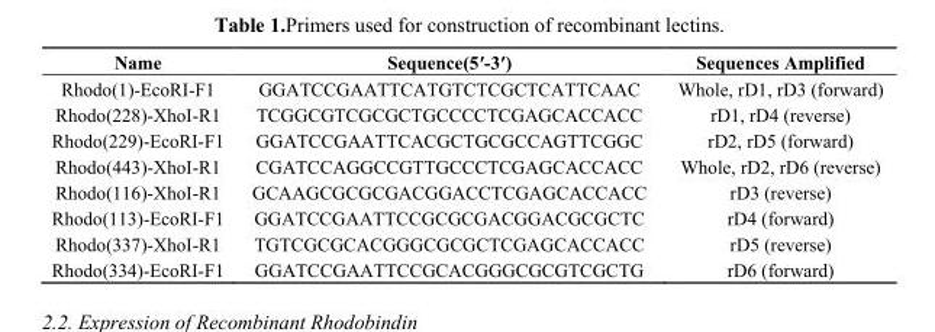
<table><thead><tr><td>Name</td><td>Sequence(5′-3′)</td><td>Sequences Amplified</td></tr></thead><tbody><tr><td>Rhodo(1)-EcoRI-F1</td><td>GGATCCGAATTCATGTCTCGCTCATTCAAC</td><td>Whole, rD1, rD3 (forward)</td></tr><tr><td>Rhodo(228)-XhoI-R1</td><td>TCGGCGTCGCGCTGCCCCTCGAGCACCACC</td><td>rD1, rD4 (reverse)</td></tr><tr><td>Rhodo(229)-EcoRI-F1</td><td>GGATCCGAATTCACGCTGCGCCAGTTCGGC</td><td>rD2, rD5 (forward)</td></tr><tr><td>Rhodo(443)-XhoI-R1</td><td>CGATCCAGGCCGTTGCCCTCGAGCACCACC</td><td>Whole, rD2, rD6 (reverse)</td></tr><tr><td>Rhodo(116)-XhoI-R1</td><td>GCAAGCGCGCGACGGACCTCGAGCACCACC</td><td>rD3 (reverse)</td></tr><tr><td>Rhodo(113)-EcoRI-F1</td><td>GGATCCGAATTCCGCGCGACGGACGCGCTC</td><td>rD4 (forward)</td></tr><tr><td>Rhodo(337)-XhoI-R1</td><td>TGTCGCGCACGGGCGCGCTCGAGCACCACC</td><td>rD5 (reverse)</td></tr><tr><td>Rhodo(334)-EcoRI-F1</td><td>GGATCCGAATTCCGCACGGGCGCGTCGCTG</td><td>rD6 (forward)</td></tr></tbody></table>